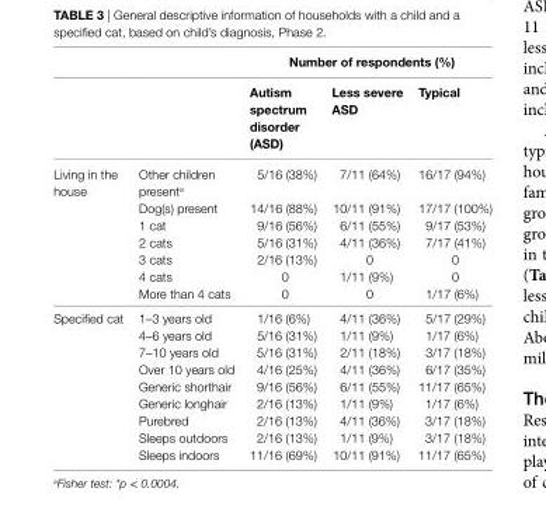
<table><thead><tr><td rowspan="2"></td><td rowspan="2"></td><td colspan="3">number of respondents (%)</td></tr><tr><td>autism spectrum disorder (asD)</td><td>less severe asD</td><td>Typical</td></tr></thead><tbody><tr><td rowspan="7">Living in the house</td><td>Other children present<sup>a</sup></td><td>5/16 (38%)</td><td>7/11 (64%)</td><td>16/17 (94%)</td></tr><tr><td>Dog(s) present</td><td>14/16 (88%)</td><td>10/11 (91%)</td><td>17/17 (100%)</td></tr><tr><td>1 cat</td><td>9/16 (56%)</td><td>6/11 (55%)</td><td>9/17 (53%)</td></tr><tr><td>2 cats</td><td>5/16 (31%)</td><td>4/11 (36%)</td><td>7/17 (41%)</td></tr><tr><td>3 cats</td><td>2/16 (13%)</td><td>0</td><td>0</td></tr><tr><td>4 cats</td><td>0</td><td>1/11 (9%)</td><td>0</td></tr><tr><td>More than 4 cats</td><td>0</td><td>0</td><td>1/17 (6%)</td></tr><tr><td rowspan="9">Specified cat</td><td>1–3 years old</td><td>1/16 (6%)</td><td>4/11 (36%)</td><td>5/17 (29%)</td></tr><tr><td>4–6 years old</td><td>5/16 (31%)</td><td>1/11 (9%)</td><td>1/17 (6%)</td></tr><tr><td>7–10 years old</td><td>5/16 (31%)</td><td>2/11 (18%)</td><td>3/17 (18%)</td></tr><tr><td>Over 10 years old</td><td>4/16 (25%)</td><td>4/11 (36%)</td><td>6/17 (35%)</td></tr><tr><td>Generic shorthair</td><td>9/16 (56%)</td><td>6/11 (55%)</td><td>11/17 (65%)</td></tr><tr><td>Generic longhair</td><td>2/16 (13%)</td><td>1/11 (9%)</td><td>1/17 (6%)</td></tr><tr><td>Purebred</td><td>2/16 (13%)</td><td>4/11 (36%)</td><td>3/17 (18%)</td></tr><tr><td>Sleeps outdoors</td><td>2/16 (13%)</td><td>1/11 (9%)</td><td>3/17 (18%)</td></tr><tr><td>Sleeps indoors</td><td>11/16 (69%)</td><td>10/11 (91%)</td><td>11/17 (65%)</td></tr></tbody></table>